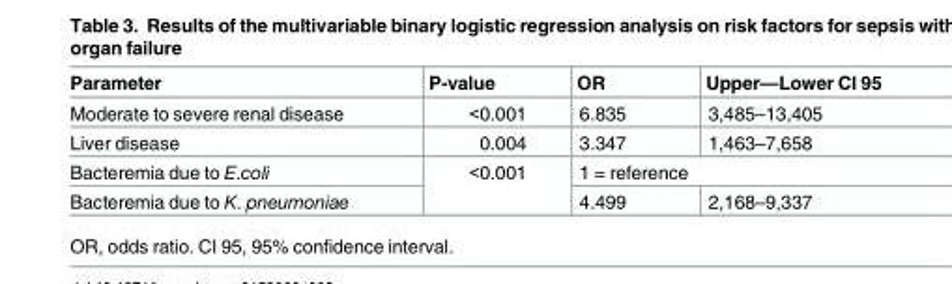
<table><thead><tr><td>Parameter</td><td>P-value</td><td>OR</td><td>Upper—Lower CI 95</td></tr></thead><tbody><tr><td>Moderate to severe renal disease</td><td>&lt;0.001</td><td>6.835</td><td>3,485–13,405</td></tr><tr><td>Liver disease</td><td>0.004</td><td>3.347</td><td>1,463–7,658</td></tr><tr><td>Bacteremia due to E.coli</td><td rowspan="2">&lt;0.001</td><td colspan="2">1 = reference</td></tr><tr><td>Bacteremia due to K. pneumoniae</td><td>4.499</td><td>2,168–9,337</td></tr></tbody></table>